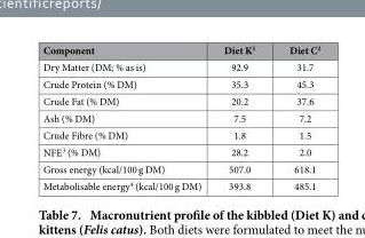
<table><thead><tr><td>Component</td><td>Diet K1</td><td>Diet C2</td></tr></thead><tbody><tr><td>Dry Matter (DM; % as is)</td><td>92.9</td><td>31.7</td></tr><tr><td>Crude Protein (% DM)</td><td>35.3</td><td>45.3</td></tr><tr><td>Crude Fat (% DM)</td><td>20.2</td><td>37.6</td></tr><tr><td>Ash (% DM)</td><td>7.5</td><td>7.2</td></tr><tr><td>Crude Fibre (% DM)</td><td>1.8</td><td>1.5</td></tr><tr><td>NFE3 (% DM)</td><td>28.2</td><td>2.0</td></tr><tr><td>Gross energy (kcal/100 g DM)</td><td>507.0</td><td>618.1</td></tr><tr><td>Metabolisable energy4 (kcal/100 g DM)</td><td>393.8</td><td>485.1</td></tr></tbody></table>